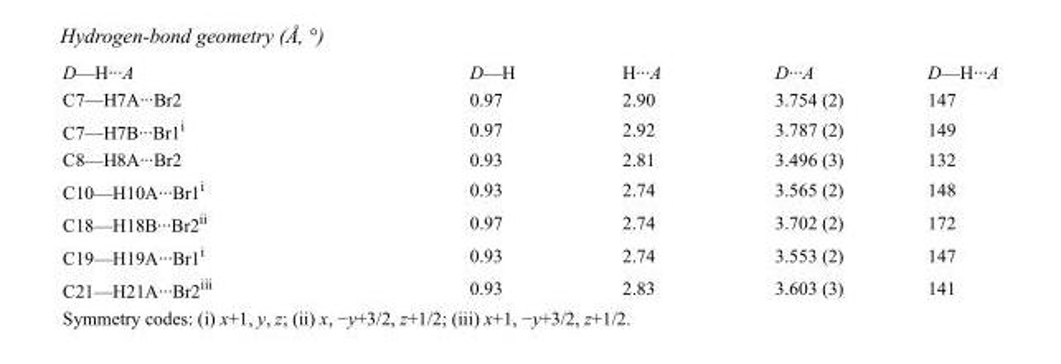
<table><tbody><tr><td>D—H···A</td><td>D—H</td><td>H···A</td><td>D···A</td><td>D—H···A</td></tr><tr><td>C7—H7A···Br2</td><td>0.97</td><td>2.90</td><td>3.754 (2)</td><td>147</td></tr><tr><td>C7—H7B···Br1<sup>i</sup></td><td>0.97</td><td>2.92</td><td>3.787 (2)</td><td>149</td></tr><tr><td>C8—H8A···Br2</td><td>0.93</td><td>2.81</td><td>3.496 (3)</td><td>132</td></tr><tr><td>C10—H10A···Br1<sup>i</sup></td><td>0.93</td><td>2.74</td><td>3.565 (2)</td><td>148</td></tr><tr><td>C18—H18B···Br2<sup>ii</sup></td><td>0.97</td><td>2.74</td><td>3.702 (2)</td><td>172</td></tr><tr><td>C19—H19A···Br1<sup>i</sup></td><td>0.93</td><td>2.74</td><td>3.553 (2)</td><td>147</td></tr><tr><td>C21—H21A···Br2<sup>iii</sup></td><td>0.93</td><td>2.83</td><td>3.603 (3)</td><td>141</td></tr></tbody></table>